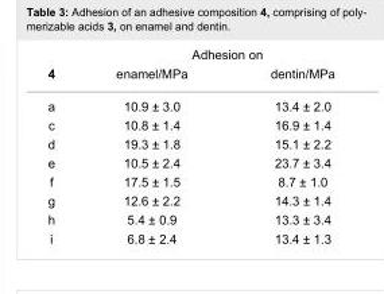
<table><thead><tr><td rowspan="2">4</td><td colspan="2">Adhesion on</td></tr><tr><td>enamel/MPa</td><td>dentin/MPa</td></tr></thead><tbody><tr><td>a</td><td>10.9 ± 3.0</td><td>13.4 ± 2.0</td></tr><tr><td>c</td><td>10.8 ± 1.4</td><td>16.9 ± 1.4</td></tr><tr><td>d</td><td>19.3 ± 1.8</td><td>15.1 ± 2.2</td></tr><tr><td>e</td><td>10.5 ± 2.4</td><td>23.7 ± 3.4</td></tr><tr><td>f</td><td>17.5 ± 1.5</td><td>8.7 ± 1.0</td></tr><tr><td>g</td><td>12.6 ± 2.2</td><td>14.3 ± 1.4</td></tr><tr><td>h</td><td>5.4 ± 0.9</td><td>13.3 ± 3.4</td></tr><tr><td>i</td><td>6.8 ± 2.4</td><td>13.4 ± 1.3</td></tr></tbody></table>